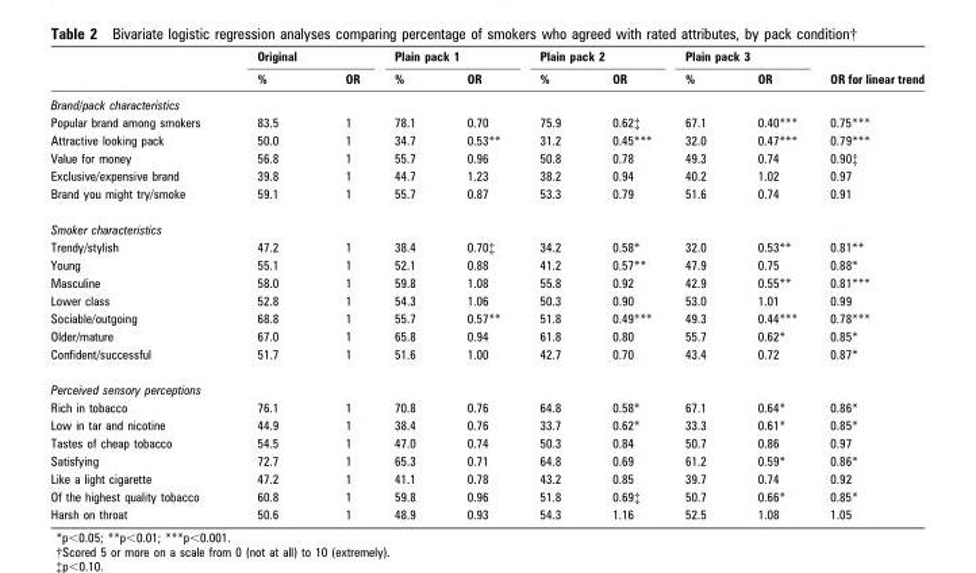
<table><thead><tr><td rowspan="2"></td><td colspan="2">Original</td><td colspan="2">Plain pack 1</td><td colspan="2">Plain pack 2</td><td colspan="2">Plain pack 3</td><td rowspan="2">OR for linear trend</td></tr><tr><td>%</td><td>OR</td><td>%</td><td>OR</td><td>%</td><td>OR</td><td>%</td><td>OR</td></tr></thead><tbody><tr><td colspan="10">Brand/pack characteristics</td></tr><tr><td>Popular brand among smokers</td><td>83.5</td><td>1</td><td>78.1</td><td>0.70</td><td>75.9</td><td>0.62‡</td><td>67.1</td><td>0.40***</td><td>0.75***</td></tr><tr><td>Attractive looking pack</td><td>50.0</td><td>1</td><td>34.7</td><td>0.53**</td><td>31.2</td><td>0.45***</td><td>32.0</td><td>0.47***</td><td>0.79***</td></tr><tr><td>Value for money</td><td>56.8</td><td>1</td><td>55.7</td><td>0.96</td><td>50.8</td><td>0.78</td><td>49.3</td><td>0.74</td><td>0.90‡</td></tr><tr><td>Exclusive/expensive brand</td><td>39.8</td><td>1</td><td>44.7</td><td>1.23</td><td>38.2</td><td>0.94</td><td>40.2</td><td>1.02</td><td>0.97</td></tr><tr><td>Brand you might try/smoke</td><td>59.1</td><td>1</td><td>55.7</td><td>0.87</td><td>53.3</td><td>0.79</td><td>51.6</td><td>0.74</td><td>0.91</td></tr><tr><td colspan="10">Smoker characteristics</td></tr><tr><td>Trendy/stylish</td><td>47.2</td><td>1</td><td>38.4</td><td>0.70‡</td><td>34.2</td><td>0.58*</td><td>32.0</td><td>0.53**</td><td>0.81**</td></tr><tr><td>Young</td><td>55.1</td><td>1</td><td>52.1</td><td>0.88</td><td>41.2</td><td>0.57**</td><td>47.9</td><td>0.75</td><td>0.88*</td></tr><tr><td>Masculine</td><td>58.0</td><td>1</td><td>59.8</td><td>1.08</td><td>55.8</td><td>0.92</td><td>42.9</td><td>0.55**</td><td>0.81***</td></tr><tr><td>Lower class</td><td>52.8</td><td>1</td><td>54.3</td><td>1.06</td><td>50.3</td><td>0.90</td><td>53.0</td><td>1.01</td><td>0.99</td></tr><tr><td>Sociable/outgoing</td><td>68.8</td><td>1</td><td>55.7</td><td>0.57**</td><td>51.8</td><td>0.49***</td><td>49.3</td><td>0.44***</td><td>0.78***</td></tr><tr><td>Older/mature</td><td>67.0</td><td>1</td><td>65.8</td><td>0.94</td><td>61.8</td><td>0.80</td><td>55.7</td><td>0.62*</td><td>0.85*</td></tr><tr><td>Confident/successful</td><td>51.7</td><td>1</td><td>51.6</td><td>1.00</td><td>42.7</td><td>0.70</td><td>43.4</td><td>0.72</td><td>0.87*</td></tr><tr><td colspan="10">Perceived sensory perceptions</td></tr><tr><td>Rich in tobacco</td><td>76.1</td><td>1</td><td>70.8</td><td>0.76</td><td>64.8</td><td>0.58*</td><td>67.1</td><td>0.64*</td><td>0.86*</td></tr><tr><td>Low in tar and nicotine</td><td>44.9</td><td>1</td><td>38.4</td><td>0.76</td><td>33.7</td><td>0.62*</td><td>33.3</td><td>0.61*</td><td>0.85*</td></tr><tr><td>Tastes of cheap tobacco</td><td>54.5</td><td>1</td><td>47.0</td><td>0.74</td><td>50.3</td><td>0.84</td><td>50.7</td><td>0.86</td><td>0.97</td></tr><tr><td>Satisfying</td><td>72.7</td><td>1</td><td>65.3</td><td>0.71</td><td>64.8</td><td>0.69</td><td>61.2</td><td>0.59*</td><td>0.86*</td></tr><tr><td>Like a light cigarette</td><td>47.2</td><td>1</td><td>41.1</td><td>0.78</td><td>43.2</td><td>0.85</td><td>39.7</td><td>0.74</td><td>0.92</td></tr><tr><td>Of the highest quality tobacco</td><td>60.8</td><td>1</td><td>59.8</td><td>0.96</td><td>51.8</td><td>0.69‡</td><td>50.7</td><td>0.66*</td><td>0.85*</td></tr><tr><td>Harsh on throat</td><td>50.6</td><td>1</td><td>48.9</td><td>0.93</td><td>54.3</td><td>1.16</td><td>52.5</td><td>1.08</td><td>1.05</td></tr></tbody></table>